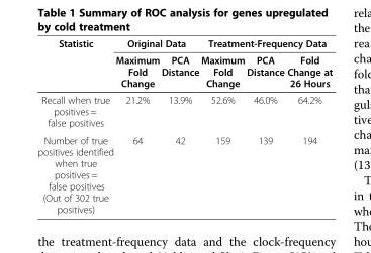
<table><thead><tr><td rowspan="2">Statistic</td><td colspan="2">Original Data</td><td colspan="3">Treatment-Frequency Data</td></tr><tr><td>Maximum Fold Change</td><td>PCA Distance</td><td>Maximum Fold Change</td><td>PCA Distance</td><td>Fold Change at 26 Hours</td></tr></thead><tbody><tr><td>Recall when true positives = false positives</td><td>21.2%</td><td>13.9%</td><td>52.6%</td><td>46.0%</td><td>64.2%</td></tr><tr><td>Number of true positives identified when true positives = false positives (Out of 302 true positives)</td><td>64</td><td>42</td><td>159</td><td>139</td><td>194</td></tr></tbody></table>